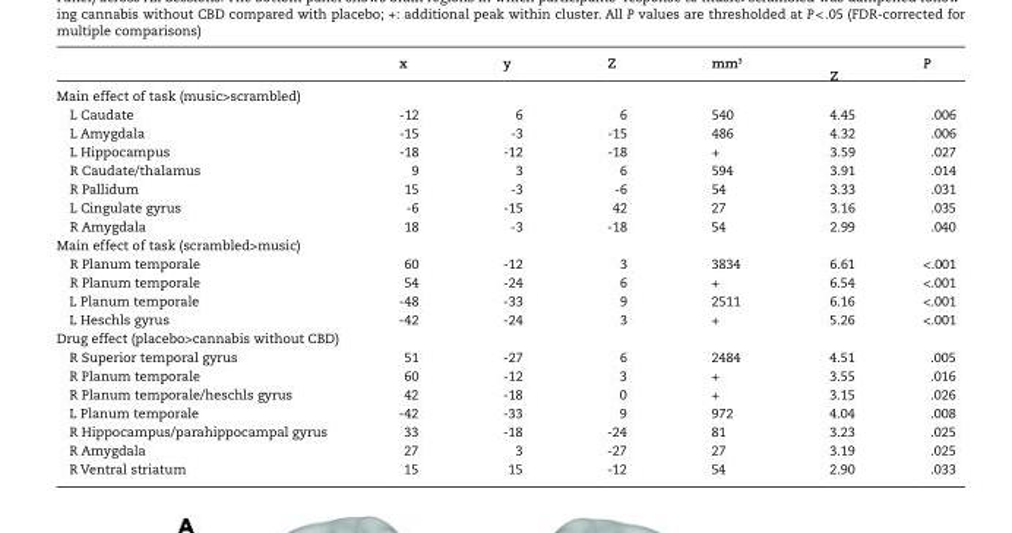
<table><thead><tr><td></td><td>x</td><td>y</td><td>Z</td><td>mm<sup>3</sup></td><td>Z</td><td>P</td></tr></thead><tbody><tr><td colspan="7">Main effect of task (music&gt;scrambled)</td></tr><tr><td>L Caudate</td><td>-12</td><td>6</td><td>6</td><td>540</td><td>4.45</td><td>.006</td></tr><tr><td>L Amygdala</td><td>-15</td><td>-3</td><td>-15</td><td>486</td><td>4.32</td><td>.006</td></tr><tr><td>L Hippocampus</td><td>-18</td><td>-12</td><td>-18</td><td>+</td><td>3.59</td><td>.027</td></tr><tr><td>R Caudate/thalamus</td><td>9</td><td>3</td><td>6</td><td>594</td><td>3.91</td><td>.014</td></tr><tr><td>R Pallidum</td><td>15</td><td>-3</td><td>-6</td><td>54</td><td>3.33</td><td>.031</td></tr><tr><td>L Cingulate gyrus</td><td>-6</td><td>-15</td><td>42</td><td>27</td><td>3.16</td><td>.035</td></tr><tr><td>R Amygdala</td><td>18</td><td>-3</td><td>-18</td><td>54</td><td>2.99</td><td>.040</td></tr><tr><td colspan="7">Main effect of task (scrambled&gt;music)</td></tr><tr><td>R Planum temporale</td><td>60</td><td>-12</td><td>3</td><td>3834</td><td>6.61</td><td>&lt;.001</td></tr><tr><td>R Planum temporale</td><td>54</td><td>-24</td><td>6</td><td>+</td><td>6.54</td><td>&lt;.001</td></tr><tr><td>L Planum temporale</td><td>-48</td><td>-33</td><td>9</td><td>2511</td><td>6.16</td><td>&lt;.001</td></tr><tr><td>L Heschls gyrus</td><td>-42</td><td>-24</td><td>3</td><td>+</td><td>5.26</td><td>&lt;.001</td></tr><tr><td colspan="7">Drug effect (placebo&gt;cannabis without CBD)</td></tr><tr><td>R Superior temporal gyrus</td><td>51</td><td>-27</td><td>6</td><td>2484</td><td>4.51</td><td>.005</td></tr><tr><td>R Planum temporale</td><td>60</td><td>-12</td><td>3</td><td>+</td><td>3.55</td><td>.016</td></tr><tr><td>R Planum temporale/heschls gyrus</td><td>42</td><td>-18</td><td>0</td><td>+</td><td>3.15</td><td>.026</td></tr><tr><td>L Planum temporale</td><td>-42</td><td>-33</td><td>9</td><td>972</td><td>4.04</td><td>.008</td></tr><tr><td>R Hippocampus/parahippocampal gyrus</td><td>33</td><td>-18</td><td>-24</td><td>81</td><td>3.23</td><td>.025</td></tr><tr><td>R Amygdala</td><td>27</td><td>3</td><td>-27</td><td>27</td><td>3.19</td><td>.025</td></tr><tr><td>R Ventral striatum</td><td>15</td><td>15</td><td>-12</td><td>54</td><td>2.90</td><td>.033</td></tr></tbody></table>